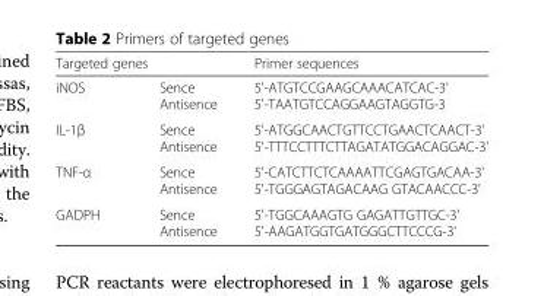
<table><thead><tr><td>Targeted genes</td><td></td><td>Primer sequences</td></tr></thead><tbody><tr><td>iNOS</td><td>Sence Antisence</td><td>5&#x27;-ATGTCCGAAGCAAACATCAC-3&#x27; 5&#x27;-TAATGTCCAGGAAGTAGGTG-3</td></tr><tr><td>IL-1β</td><td>Sence Antisence</td><td>5&#x27;-ATGGCAACTGTTCCTGAACTCAACT-3&#x27; 5&#x27;-TTTCCTTTCTTAGATATGGACAGGAC-3&#x27;</td></tr><tr><td>TNF-α</td><td>Sence Antisence</td><td>5&#x27;-CATCTTCTCAAAATTCGAGTGACAA-3&#x27; 5&#x27;-TGGGAGTAGACAAG GTACAACCC-3&#x27;</td></tr><tr><td>GADPH</td><td>Sence Antisence</td><td>5&#x27;-TGGCAAAGTG GAGATTGTTGC-3&#x27; 5&#x27;-AAGATGGTGATGGGCTTCCCG-3&#x27;</td></tr></tbody></table>